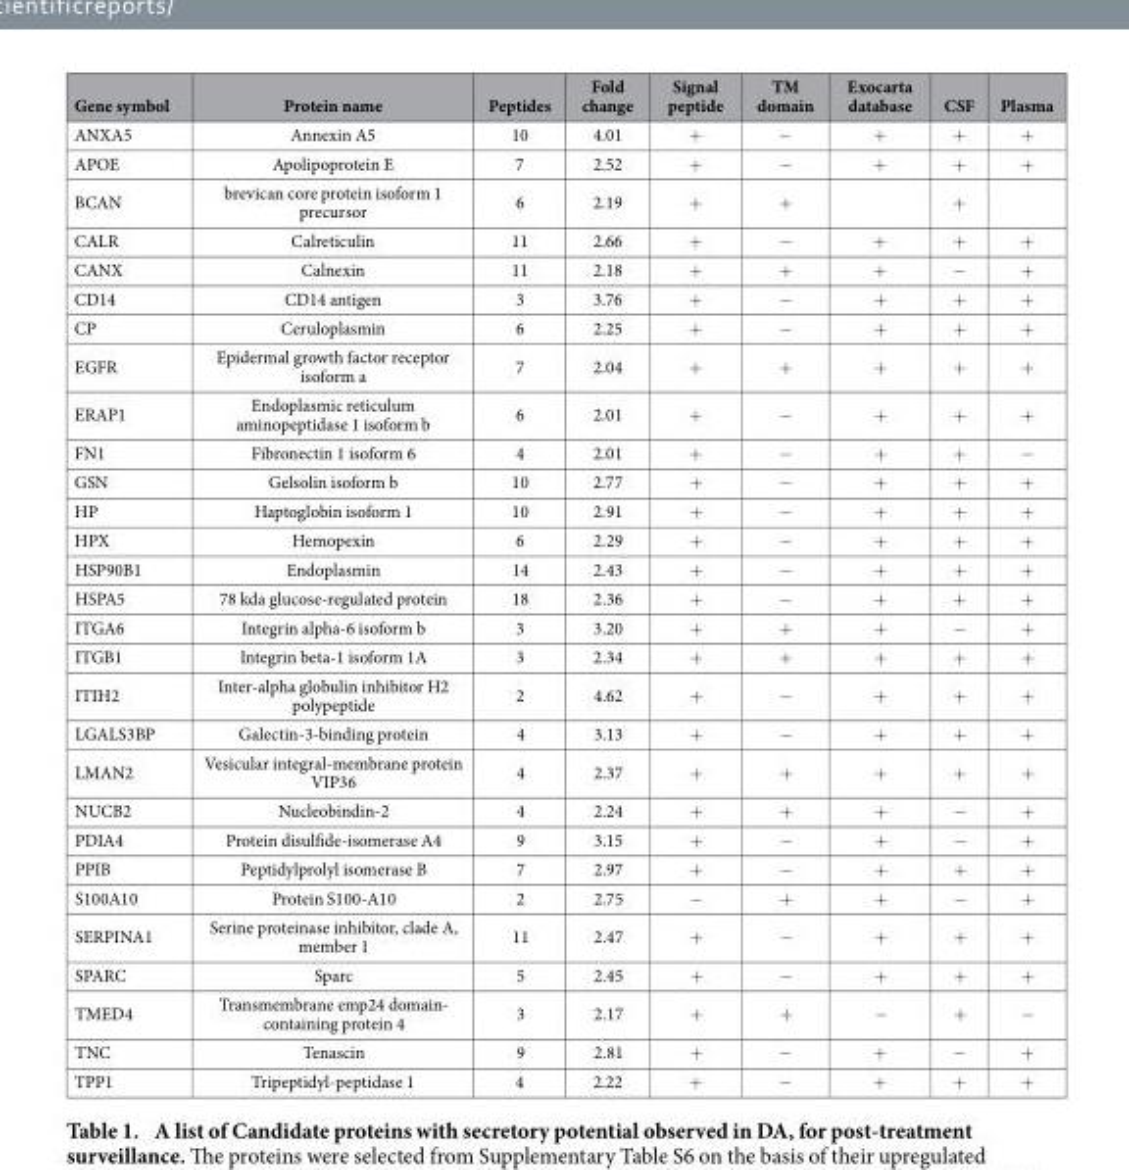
<table><thead><tr><td>Gene symbol</td><td>Protein name</td><td>Peptides</td><td>Fold change</td><td>Signal peptide</td><td>TM domain</td><td>Exocarta database</td><td>CSF</td><td>Plasma</td></tr></thead><tbody><tr><td>ANXA5</td><td>Annexin A5</td><td>10</td><td>4.01</td><td>+</td><td>−</td><td>+</td><td>+</td><td>+</td></tr><tr><td>APOE</td><td>Apolipoprotein E</td><td>7</td><td>2.52</td><td>+</td><td>−</td><td>+</td><td>+</td><td>+</td></tr><tr><td>BCAN</td><td>brevican core protein isoform 1 precursor</td><td>6</td><td>2.19</td><td>+</td><td>+</td><td></td><td>+</td><td></td></tr><tr><td>CALR</td><td>Calreticulin</td><td>11</td><td>2.66</td><td>+</td><td>−</td><td>+</td><td>+</td><td>+</td></tr><tr><td>CANX</td><td>Calnexin</td><td>11</td><td>2.18</td><td>+</td><td>+</td><td>+</td><td>−</td><td>+</td></tr><tr><td>CD14</td><td>CD14 antigen</td><td>3</td><td>3.76</td><td>+</td><td>−</td><td>+</td><td>+</td><td>+</td></tr><tr><td>CP</td><td>Ceruloplasmin</td><td>6</td><td>2.25</td><td>+</td><td>−</td><td>+</td><td>+</td><td>+</td></tr><tr><td>EGFR</td><td>Epidermal growth factor receptor isoform a</td><td>7</td><td>2.04</td><td>+</td><td>+</td><td>+</td><td>+</td><td>+</td></tr><tr><td>ERAP1</td><td>Endoplasmic reticulum aminopeptidase 1 isoform b</td><td>6</td><td>2.01</td><td>+</td><td>−</td><td>+</td><td>+</td><td>+</td></tr><tr><td>FN1</td><td>Fibronectin 1 isoform 6</td><td>4</td><td>2.01</td><td>+</td><td>−</td><td>+</td><td>+</td><td>−</td></tr><tr><td>GSN</td><td>Gelsolin isoform b</td><td>10</td><td>2.77</td><td>+</td><td>−</td><td>+</td><td>+</td><td>+</td></tr><tr><td>HP</td><td>Haptoglobin isoform 1</td><td>10</td><td>2.91</td><td>+</td><td>−</td><td>+</td><td>+</td><td>+</td></tr><tr><td>HPX</td><td>Hemopexin</td><td>6</td><td>2.29</td><td>+</td><td>−</td><td>+</td><td>+</td><td>+</td></tr><tr><td>HSP90B1</td><td>Endoplasmin</td><td>14</td><td>2.43</td><td>+</td><td>−</td><td>+</td><td>+</td><td>+</td></tr><tr><td>HSPA5</td><td>78 kda glucose-regulated protein</td><td>18</td><td>2.36</td><td>+</td><td>−</td><td>+</td><td>+</td><td>+</td></tr><tr><td>ITGA6</td><td>Integrin alpha-6 isoform b</td><td>3</td><td>3.20</td><td>+</td><td>+</td><td>+</td><td>−</td><td>+</td></tr><tr><td>ITGB1</td><td>Integrin beta-1 isoform 1A</td><td>3</td><td>2.34</td><td>+</td><td>+</td><td>+</td><td>+</td><td>+</td></tr><tr><td>ITIH2</td><td>Inter-alpha globulin inhibitor H2 polypeptide</td><td>2</td><td>4.62</td><td>+</td><td>−</td><td>+</td><td>+</td><td>+</td></tr><tr><td>LGALS3BP</td><td>Galectin-3-binding protein</td><td>4</td><td>3.13</td><td>+</td><td>−</td><td>+</td><td>+</td><td>+</td></tr><tr><td>LMAN2</td><td>Vesicular integral-membrane protein VIP36</td><td>4</td><td>2.37</td><td>+</td><td>+</td><td>+</td><td>+</td><td>+</td></tr><tr><td>NUCB2</td><td>Nucleobindin-2</td><td>4</td><td>2.24</td><td>+</td><td>+</td><td>+</td><td>−</td><td>+</td></tr><tr><td>PDIA4</td><td>Protein disulfide-isomerase A4</td><td>9</td><td>3.15</td><td>+</td><td>−</td><td>+</td><td>−</td><td>+</td></tr><tr><td>PPIB</td><td>Peptidylprolyl isomerase B</td><td>7</td><td>2.97</td><td>+</td><td>−</td><td>+</td><td>+</td><td>+</td></tr><tr><td>S100A10</td><td>Protein S100-A10</td><td>2</td><td>2.75</td><td>−</td><td>+</td><td>+</td><td>−</td><td>+</td></tr><tr><td>SERPINA1</td><td>Serine proteinase inhibitor, clade A, member 1</td><td>11</td><td>2.47</td><td>+</td><td>−</td><td>+</td><td>+</td><td>+</td></tr><tr><td>SPARC</td><td>Sparc</td><td>5</td><td>2.45</td><td>+</td><td>−</td><td>+</td><td>+</td><td>+</td></tr><tr><td>TMED4</td><td>Transmembrane emp24 domain- containing protein 4</td><td>3</td><td>2.17</td><td>+</td><td>+</td><td>−</td><td>+</td><td>−</td></tr><tr><td>TNC</td><td>Tenascin</td><td>9</td><td>2.81</td><td>+</td><td>−</td><td>+</td><td>−</td><td>+</td></tr><tr><td>TPP1</td><td>Tripeptidyl-peptidase 1</td><td>4</td><td>2.22</td><td>+</td><td>−</td><td>+</td><td>+</td><td>+</td></tr></tbody></table>